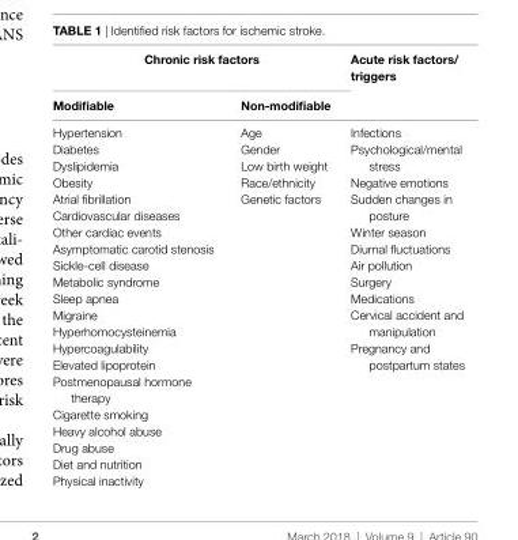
<table><thead><tr><td colspan="2">Chronic risk factors</td><td rowspan="2">acute risk factors/ triggers</td></tr><tr><td>Modifiable</td><td>non-modifiable</td></tr></thead><tbody><tr><td>Hypertension Diabetes Dyslipidemia Obesity Atrial fibrillation Cardiovascular diseases Other cardiac events Asymptomatic carotid stenosis Sickle-cell disease Metabolic syndrome Sleep apnea Migraine Hyperhomocysteinemia Hypercoagulability Elevated lipoprotein Postmenopausal hormone therapy Cigarette smoking Heavy alcohol abuse Drug abuse Diet and nutrition Physical inactivity</td><td>Age Gender Low birth weight Race/ethnicity Genetic factors</td><td>Infections Psychological/mental stress Negative emotions Sudden changes in posture Winter season Diurnal fluctuations Air pollution Surgery Medications Cervical accident and manipulation Pregnancy and postpartum states</td></tr></tbody></table>